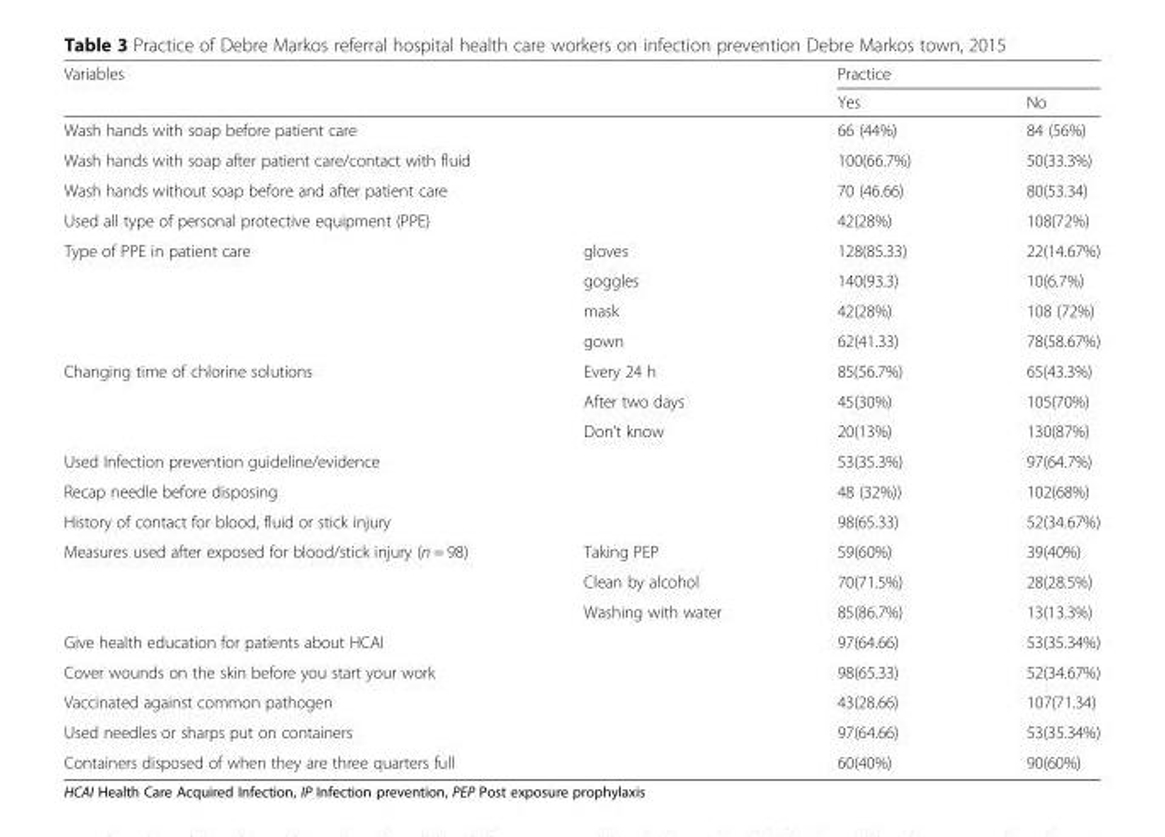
<table><thead><tr><td rowspan="2" colspan="2">Variables</td><td colspan="2">Practice</td></tr><tr><td>Yes</td><td>No</td></tr></thead><tbody><tr><td colspan="2">Wash hands with soap before patient care</td><td>66 (44%)</td><td>84 (56%)</td></tr><tr><td colspan="2">Wash hands with soap after patient care/contact with fluid</td><td>100(66.7%)</td><td>50(33.3%)</td></tr><tr><td colspan="2">Wash hands without soap before and after patient care</td><td>70 (46.66)</td><td>80(53.34)</td></tr><tr><td colspan="2">Used all type of personal protective equipment (PPE)</td><td>42(28%)</td><td>108(72%)</td></tr><tr><td rowspan="4">Type of PPE in patient care</td><td>gloves</td><td>128(85.33)</td><td>22(14.67%)</td></tr><tr><td>goggles</td><td>140(93.3)</td><td>10(6.7%)</td></tr><tr><td>mask</td><td>42(28%)</td><td>108 (72%)</td></tr><tr><td>gown</td><td>62(41.33)</td><td>78(58.67%)</td></tr><tr><td rowspan="3">Changing time of chlorine solutions</td><td>Every 24 h</td><td>85(56.7%)</td><td>65(43.3%)</td></tr><tr><td>After two days</td><td>45(30%)</td><td>105(70%)</td></tr><tr><td>Don’t know</td><td>20(13%)</td><td>130(87%)</td></tr><tr><td colspan="2">Used Infection prevention guideline/evidence</td><td>53(35.3%)</td><td>97(64.7%)</td></tr><tr><td colspan="2">Recap needle before disposing</td><td>48 (32%))</td><td>102(68%)</td></tr><tr><td colspan="2">History of contact for blood, fluid or stick injury</td><td>98(65.33)</td><td>52(34.67%)</td></tr><tr><td rowspan="3">Measures used after exposed for blood/stick injury (n = 98)</td><td>Taking PEP</td><td>59(60%)</td><td>39(40%)</td></tr><tr><td>Clean by alcohol</td><td>70(71.5%)</td><td>28(28.5%)</td></tr><tr><td>Washing with water</td><td>85(86.7%)</td><td>13(13.3%)</td></tr><tr><td colspan="2">Give health education for patients about HCAI</td><td>97(64.66)</td><td>53(35.34%)</td></tr><tr><td colspan="2">Cover wounds on the skin before you start your work</td><td>98(65.33)</td><td>52(34.67%)</td></tr><tr><td colspan="2">Vaccinated against common pathogen</td><td>43(28.66)</td><td>107(71.34)</td></tr><tr><td colspan="2">Used needles or sharps put on containers</td><td>97(64.66)</td><td>53(35.34%)</td></tr><tr><td colspan="2">Containers disposed of when they are three quarters full</td><td>60(40%)</td><td>90(60%)</td></tr></tbody></table>